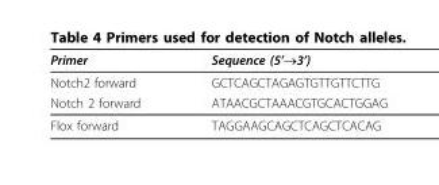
<table><thead><tr><td>Primer</td><td>Sequence (5’→3’)</td></tr></thead><tbody><tr><td>Notch2 forward</td><td>GCTCAGCTAGAGTGTTGTTCTTG</td></tr><tr><td>Notch 2 forward</td><td>ATAACGCTAAACGTGCACTGGAG</td></tr><tr><td>Flox forward</td><td>TAGGAAGCAGCTCAGCTCACAG</td></tr></tbody></table>